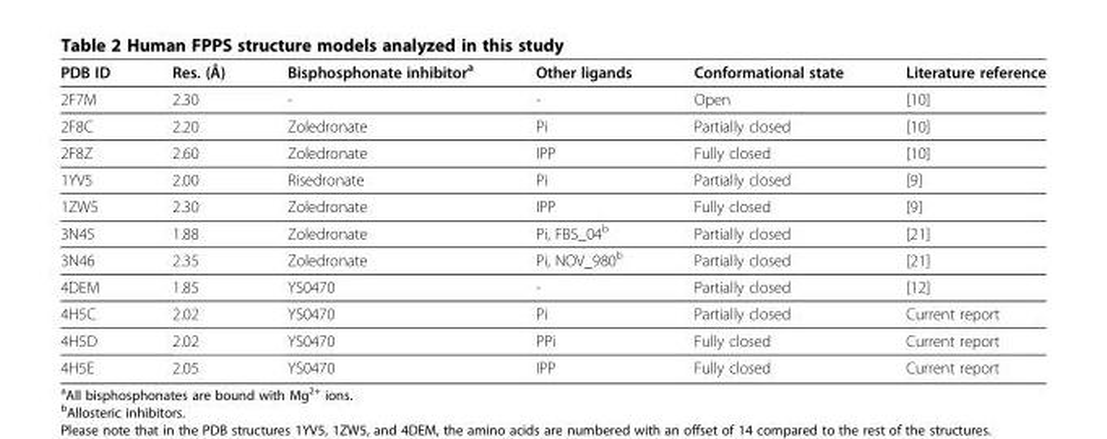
<table><thead><tr><td>PDB ID</td><td>Res. (Å)</td><td>Bisphosphonate inhibitor<sup>a</sup></td><td>Other ligands</td><td>Conformational state</td><td>Literature reference</td></tr></thead><tbody><tr><td>2F7M</td><td>2.30</td><td>-</td><td>-</td><td>Open</td><td>[10]</td></tr><tr><td>2F8C</td><td>2.20</td><td>Zoledronate</td><td>Pi</td><td>Partially closed</td><td>[10]</td></tr><tr><td>2F8Z</td><td>2.60</td><td>Zoledronate</td><td>IPP</td><td>Fully closed</td><td>[10]</td></tr><tr><td>1YV5</td><td>2.00</td><td>Risedronate</td><td>Pi</td><td>Partially closed</td><td>[9]</td></tr><tr><td>1ZW5</td><td>2.30</td><td>Zoledronate</td><td>IPP</td><td>Fully closed</td><td>[9]</td></tr><tr><td>3N45</td><td>1.88</td><td>Zoledronate</td><td>Pi, FBS_04<sup>b</sup></td><td>Partially closed</td><td>[21]</td></tr><tr><td>3N46</td><td>2.35</td><td>Zoledronate</td><td>Pi, NOV_980<sup>b</sup></td><td>Partially closed</td><td>[21]</td></tr><tr><td>4DEM</td><td>1.85</td><td>YS0470</td><td>-</td><td>Partially closed</td><td>[12]</td></tr><tr><td>4H5C</td><td>2.02</td><td>YS0470</td><td>Pi</td><td>Partially closed</td><td>Current report</td></tr><tr><td>4H5D</td><td>2.02</td><td>YS0470</td><td>PPi</td><td>Fully closed</td><td>Current report</td></tr><tr><td>4H5E</td><td>2.05</td><td>YS0470</td><td>IPP</td><td>Fully closed</td><td>Current report</td></tr></tbody></table>